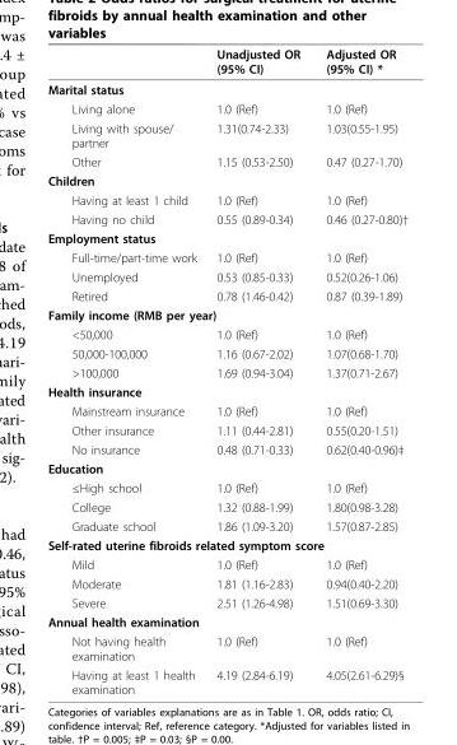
<table><thead><tr><td></td><td>Unadjusted OR (95% CI)</td><td>Adjusted OR (95% CI) *</td></tr></thead><tbody><tr><td colspan="3">Marital status</td></tr><tr><td>Living alone</td><td>1.0 (Ref)</td><td>1.0 (Ref)</td></tr><tr><td>Living with spouse/ partner</td><td>1.31(0.74-2.33)</td><td>1.03(0.55-1.95)</td></tr><tr><td>Other</td><td>1.15 (0.53-2.50)</td><td>0.47 (0.27-1.70)</td></tr><tr><td colspan="3">Children</td></tr><tr><td>Having at least 1 child</td><td>1.0 (Ref)</td><td>1.0 (Ref)</td></tr><tr><td>Having no child</td><td>0.55 (0.89-0.34)</td><td>0.46 (0.27-0.80)†</td></tr><tr><td colspan="3">Employment status</td></tr><tr><td>Full-time/part-time work</td><td>1.0 (Ref)</td><td>1.0 (Ref)</td></tr><tr><td>Unemployed</td><td>0.53 (0.85-0.33)</td><td>0.52(0.26-1.06)</td></tr><tr><td>Retired</td><td>0.78 (1.46-0.42)</td><td>0.87 (0.39-1.89)</td></tr><tr><td colspan="3">Family income (RMB per year)</td></tr><tr><td>&lt;50,000</td><td>1.0 (Ref)</td><td>1.0 (Ref)</td></tr><tr><td>50,000-100,000</td><td>1.16 (0.67-2.02)</td><td>1.07(0.68-1.70)</td></tr><tr><td>&gt;100,000</td><td>1.69 (0.94-3.04)</td><td>1.37(0.71-2.67)</td></tr><tr><td colspan="3">Health insurance</td></tr><tr><td>Mainstream insurance</td><td>1.0 (Ref)</td><td>1.0 (Ref)</td></tr><tr><td>Other insurance</td><td>1.11 (0.44-2.81)</td><td>0.55(0.20-1.51)</td></tr><tr><td>No insurance</td><td>0.48 (0.71-0.33)</td><td>0.62(0.40-0.96)‡</td></tr><tr><td colspan="3">Education</td></tr><tr><td>≤High school</td><td>1.0 (Ref)</td><td>1.0 (Ref)</td></tr><tr><td>College</td><td>1.32 (0.88-1.99)</td><td>1.80(0.98-3.28)</td></tr><tr><td>Graduate school</td><td>1.86 (1.09-3.20)</td><td>1.57(0.87-2.85)</td></tr><tr><td colspan="3">Self-rated uterine fibroids related symptom score</td></tr><tr><td>Mild</td><td>1.0 (Ref)</td><td>1.0 (Ref)</td></tr><tr><td>Moderate</td><td>1.81 (1.16-2.83)</td><td>0.94(0.40-2.20)</td></tr><tr><td>Severe</td><td>2.51 (1.26-4.98)</td><td>1.51(0.69-3.30)</td></tr><tr><td colspan="3">Annual health examination</td></tr><tr><td>Not having health examination</td><td>1.0 (Ref)</td><td>1.0 (Ref)</td></tr><tr><td>Having at least 1 health examination</td><td>4.19 (2.84-6.19)</td><td>4.05(2.61-6.29)§</td></tr></tbody></table>